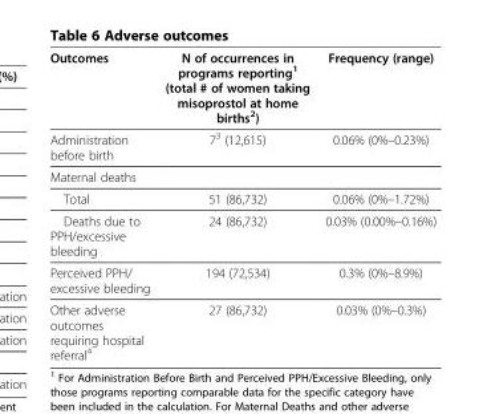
<table><thead><tr><td>Outcomes</td><td>N of occurrences in programs reporting<sup>1</sup> (total # of women taking misoprostol at home births<sup>2</sup>)</td><td>Frequency (range)</td></tr></thead><tbody><tr><td>Administration before birth</td><td>7<sup>3</sup> (12,615)</td><td>0.06% (0%–0.23%)</td></tr><tr><td colspan="3">Maternal deaths</td></tr><tr><td>Total</td><td>51 (86,732)</td><td>0.06% (0%–1.72%)</td></tr><tr><td>Deaths due to PPH/excessive bleeding</td><td>24 (86,732)</td><td>0.03% (0.00%–0.16%)</td></tr><tr><td>Perceived PPH/ excessive bleeding</td><td>194 (72,534)</td><td>0.3% (0%–8.9%)</td></tr><tr><td>Other adverse outcomes requiring hospital referral<sup>4</sup></td><td>27 (86,732)</td><td>0.03% (0%–0.3%)</td></tr></tbody></table>